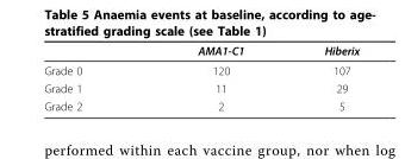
<table><thead><tr><td></td><td>AMA1-C1</td><td>Hiberix</td></tr></thead><tbody><tr><td>Grade 0</td><td>120</td><td>107</td></tr><tr><td>Grade 1</td><td>11</td><td>29</td></tr><tr><td>Grade 2</td><td>2</td><td>5</td></tr></tbody></table>